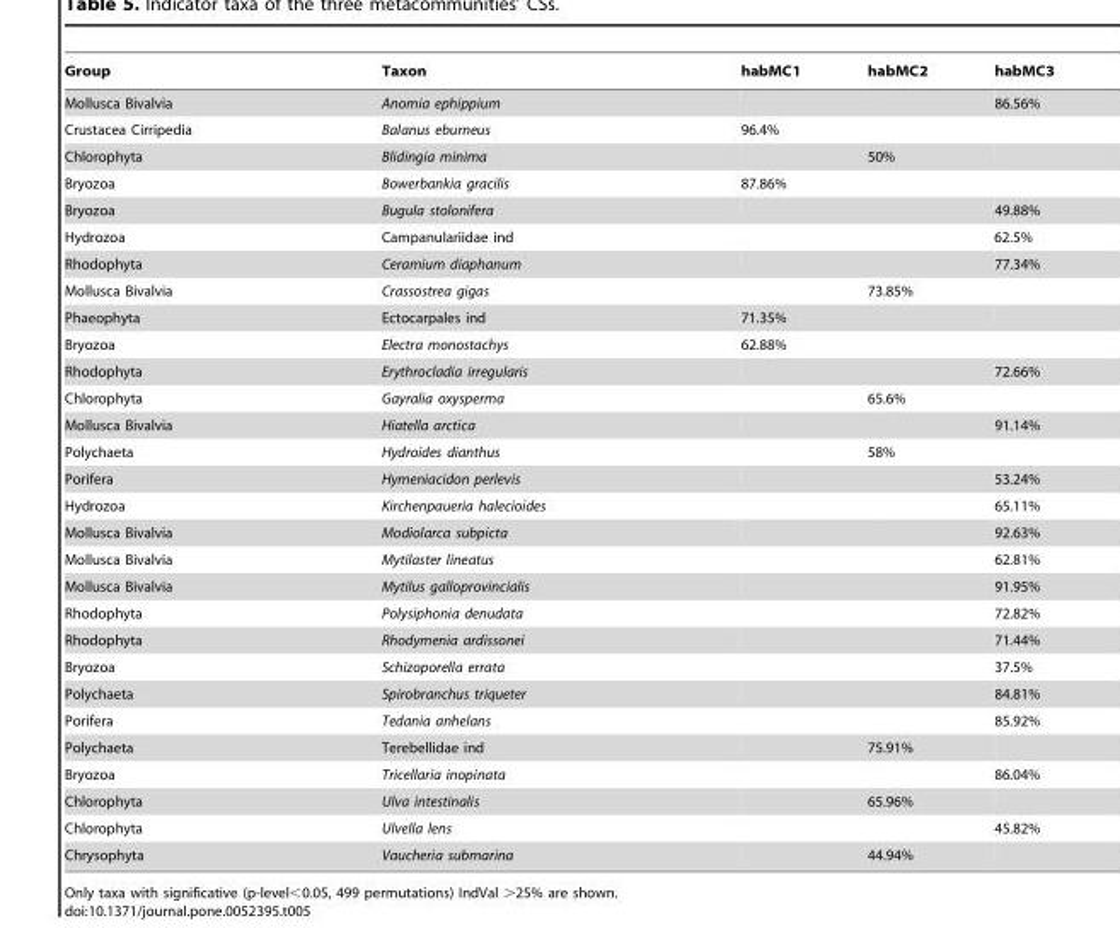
<table><thead><tr><td>Group</td><td>Taxon</td><td>habMC1</td><td>habMC2</td><td>habMC3</td></tr></thead><tbody><tr><td>Mollusca Bivalvia</td><td>Anomia ephippium</td><td></td><td></td><td>86.56%</td></tr><tr><td>Crustacea Cirripedia</td><td>Balanus eburneus</td><td>96.4%</td><td></td><td></td></tr><tr><td>Chlorophyta</td><td>Blidingia minima</td><td></td><td>50%</td><td></td></tr><tr><td>Bryozoa</td><td>Bowerbankia gracilis</td><td>87.86%</td><td></td><td></td></tr><tr><td>Bryozoa</td><td>Bugula stolonifera</td><td></td><td></td><td>49.88%</td></tr><tr><td>Hydrozoa</td><td>Campanulariidae ind</td><td></td><td></td><td>62.5%</td></tr><tr><td>Rhodophyta</td><td>Ceramium diaphanum</td><td></td><td></td><td>77.34%</td></tr><tr><td>Mollusca Bivalvia</td><td>Crassostrea gigas</td><td></td><td>73.85%</td><td></td></tr><tr><td>Phaeophyta</td><td>Ectocarpales ind</td><td>71.35%</td><td></td><td></td></tr><tr><td>Bryozoa</td><td>Electra monostachys</td><td>62.88%</td><td></td><td></td></tr><tr><td>Rhodophyta</td><td>Erythrocladia irregularis</td><td></td><td></td><td>72.66%</td></tr><tr><td>Chlorophyta</td><td>Gayralia oxysperma</td><td></td><td>65.6%</td><td></td></tr><tr><td>Mollusca Bivalvia</td><td>Hiatella arctica</td><td></td><td></td><td>91.14%</td></tr><tr><td>Polychaeta</td><td>Hydroides dianthus</td><td></td><td>58%</td><td></td></tr><tr><td>Porifera</td><td>Hymeniacidon perlevis</td><td></td><td></td><td>53.24%</td></tr><tr><td>Hydrozoa</td><td>Kirchenpaueria halecioides</td><td></td><td></td><td>65.11%</td></tr><tr><td>Mollusca Bivalvia</td><td>Modiolarca subpicta</td><td></td><td></td><td>92.63%</td></tr><tr><td>Mollusca Bivalvia</td><td>Mytilaster lineatus</td><td></td><td></td><td>62.81%</td></tr><tr><td>Mollusca Bivalvia</td><td>Mytilus galloprovincialis</td><td></td><td></td><td>91.95%</td></tr><tr><td>Rhodophyta</td><td>Polysiphonia denudata</td><td></td><td></td><td>72.82%</td></tr><tr><td>Rhodophyta</td><td>Rhodymenia ardissonei</td><td></td><td></td><td>71.44%</td></tr><tr><td>Bryozoa</td><td>Schizoporella errata</td><td></td><td></td><td>37.5%</td></tr><tr><td>Polychaeta</td><td>Spirobranchus triqueter</td><td></td><td></td><td>84.81%</td></tr><tr><td>Porifera</td><td>Tedania anhelans</td><td></td><td></td><td>85.92%</td></tr><tr><td>Polychaeta</td><td>Terebellidae ind</td><td></td><td>75.91%</td><td></td></tr><tr><td>Bryozoa</td><td>Tricellaria inopinata</td><td></td><td></td><td>86.04%</td></tr><tr><td>Chlorophyta</td><td>Ulva intestinalis</td><td></td><td>65.96%</td><td></td></tr><tr><td>Chlorophyta</td><td>Ulvella lens</td><td></td><td></td><td>45.82%</td></tr><tr><td>Chrysophyta</td><td>Vaucheria submarina</td><td></td><td>44.94%</td><td></td></tr></tbody></table>